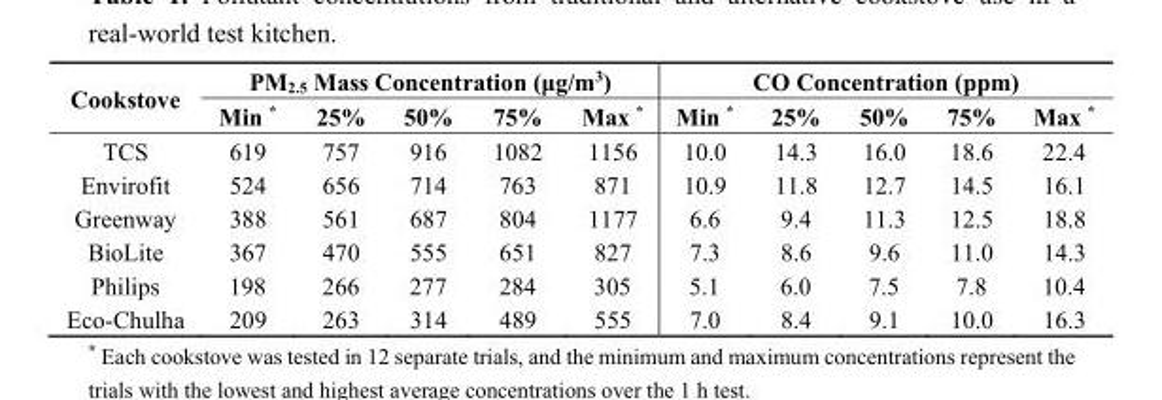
<table><thead><tr><td rowspan="2">Cookstove</td><td colspan="5">PM<sub>2.5</sub> Mass Concentration (μg/m<sup>3</sup>)</td><td colspan="5">CO Concentration (ppm)</td></tr><tr><td>Min *</td><td>25%</td><td>50%</td><td>75%</td><td>Max *</td><td>Min *</td><td>25%</td><td>50%</td><td>75%</td><td>Max *</td></tr></thead><tbody><tr><td>TCS</td><td>619</td><td>757</td><td>916</td><td>1082</td><td>1156</td><td>10.0</td><td>14.3</td><td>16.0</td><td>18.6</td><td>22.4</td></tr><tr><td>Envirofit</td><td>524</td><td>656</td><td>714</td><td>763</td><td>871</td><td>10.9</td><td>11.8</td><td>12.7</td><td>14.5</td><td>16.1</td></tr><tr><td>Greenway</td><td>388</td><td>561</td><td>687</td><td>804</td><td>1177</td><td>6.6</td><td>9.4</td><td>11.3</td><td>12.5</td><td>18.8</td></tr><tr><td>BioLite</td><td>367</td><td>470</td><td>555</td><td>651</td><td>827</td><td>7.3</td><td>8.6</td><td>9.6</td><td>11.0</td><td>14.3</td></tr><tr><td>Philips</td><td>198</td><td>266</td><td>277</td><td>284</td><td>305</td><td>5.1</td><td>6.0</td><td>7.5</td><td>7.8</td><td>10.4</td></tr><tr><td>Eco-Chulha</td><td>209</td><td>263</td><td>314</td><td>489</td><td>555</td><td>7.0</td><td>8.4</td><td>9.1</td><td>10.0</td><td>16.3</td></tr></tbody></table>